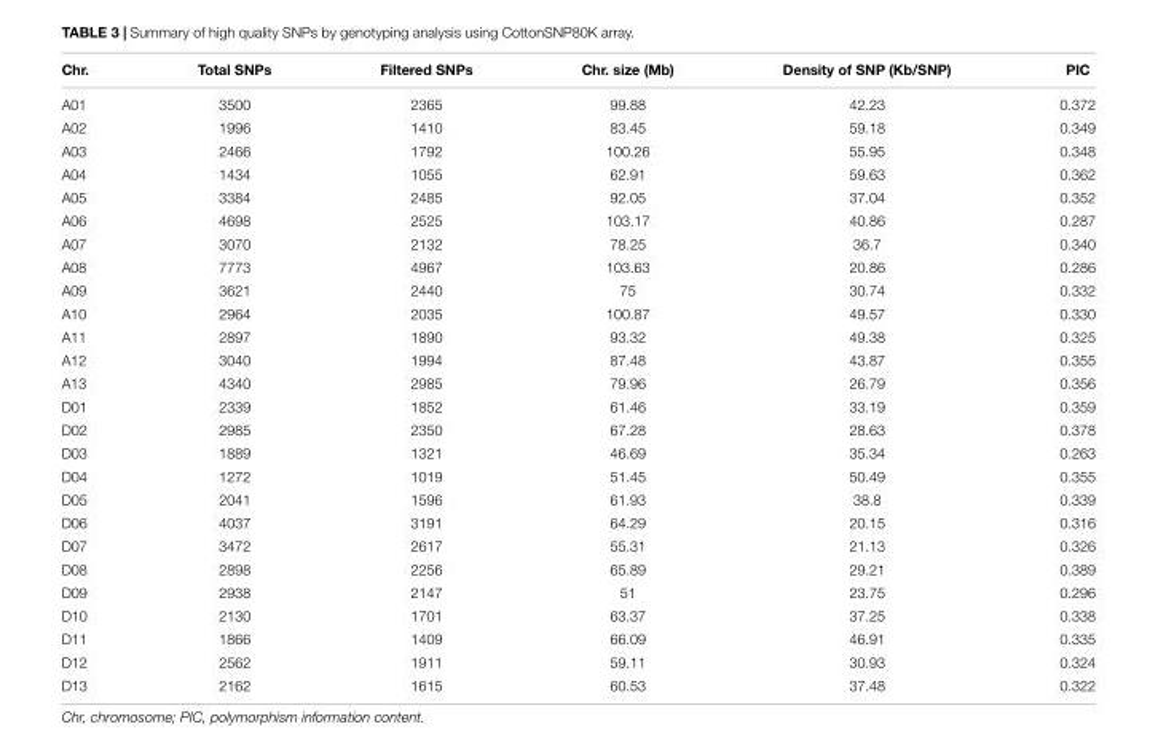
<table><thead><tr><td>Chr.</td><td>Total SNPs</td><td>Filtered SNPs</td><td>Chr. size (Mb)</td><td>Density of SNP (Kb/SNP)</td><td>PIC</td></tr></thead><tbody><tr><td>A01</td><td>3500</td><td>2365</td><td>99.88</td><td>42.23</td><td>0.372</td></tr><tr><td>A02</td><td>1996</td><td>1410</td><td>83.45</td><td>59.18</td><td>0.349</td></tr><tr><td>A03</td><td>2466</td><td>1792</td><td>100.26</td><td>55.95</td><td>0.348</td></tr><tr><td>A04</td><td>1434</td><td>1055</td><td>62.91</td><td>59.63</td><td>0.362</td></tr><tr><td>A05</td><td>3384</td><td>2485</td><td>92.05</td><td>37.04</td><td>0.352</td></tr><tr><td>A06</td><td>4698</td><td>2525</td><td>103.17</td><td>40.86</td><td>0.287</td></tr><tr><td>A07</td><td>3070</td><td>2132</td><td>78.25</td><td>36.7</td><td>0.340</td></tr><tr><td>A08</td><td>7773</td><td>4967</td><td>103.63</td><td>20.86</td><td>0.286</td></tr><tr><td>A09</td><td>3621</td><td>2440</td><td>75</td><td>30.74</td><td>0.332</td></tr><tr><td>A10</td><td>2964</td><td>2035</td><td>100.87</td><td>49.57</td><td>0.330</td></tr><tr><td>A11</td><td>2897</td><td>1890</td><td>93.32</td><td>49.38</td><td>0.325</td></tr><tr><td>A12</td><td>3040</td><td>1994</td><td>87.48</td><td>43.87</td><td>0.355</td></tr><tr><td>A13</td><td>4340</td><td>2985</td><td>79.96</td><td>26.79</td><td>0.356</td></tr><tr><td>D01</td><td>2339</td><td>1852</td><td>61.46</td><td>33.19</td><td>0.359</td></tr><tr><td>D02</td><td>2985</td><td>2350</td><td>67.28</td><td>28.63</td><td>0.378</td></tr><tr><td>D03</td><td>1889</td><td>1321</td><td>46.69</td><td>35.34</td><td>0.263</td></tr><tr><td>D04</td><td>1272</td><td>1019</td><td>51.45</td><td>50.49</td><td>0.355</td></tr><tr><td>D05</td><td>2041</td><td>1596</td><td>61.93</td><td>38.8</td><td>0.339</td></tr><tr><td>D06</td><td>4037</td><td>3191</td><td>64.29</td><td>20.15</td><td>0.316</td></tr><tr><td>D07</td><td>3472</td><td>2617</td><td>55.31</td><td>21.13</td><td>0.326</td></tr><tr><td>D08</td><td>2898</td><td>2256</td><td>65.89</td><td>29.21</td><td>0.389</td></tr><tr><td>D09</td><td>2938</td><td>2147</td><td>51</td><td>23.75</td><td>0.296</td></tr><tr><td>D10</td><td>2130</td><td>1701</td><td>63.37</td><td>37.25</td><td>0.338</td></tr><tr><td>D11</td><td>1866</td><td>1409</td><td>66.09</td><td>46.91</td><td>0.335</td></tr><tr><td>D12</td><td>2562</td><td>1911</td><td>59.11</td><td>30.93</td><td>0.324</td></tr><tr><td>D13</td><td>2162</td><td>1615</td><td>60.53</td><td>37.48</td><td>0.322</td></tr></tbody></table>